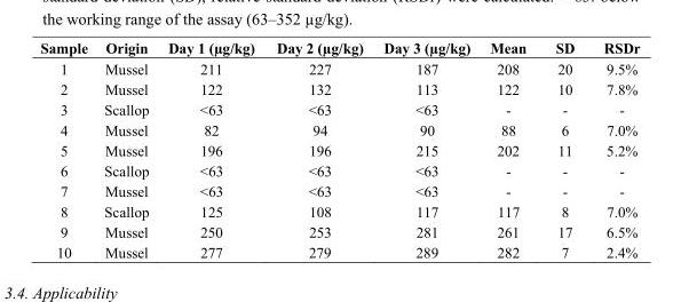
<table><thead><tr><td>Sample</td><td>Origin</td><td>Day 1 (µg/kg)</td><td>Day 2 (µg/kg)</td><td>Day 3 (µg/kg)</td><td>Mean</td><td>SD</td><td>RSDr</td></tr></thead><tbody><tr><td>1</td><td>Mussel</td><td>211</td><td>227</td><td>187</td><td>208</td><td>20</td><td>9.5%</td></tr><tr><td>2</td><td>Mussel</td><td>122</td><td>132</td><td>113</td><td>122</td><td>10</td><td>7.8%</td></tr><tr><td>3</td><td>Scallop</td><td>&lt;63</td><td>&lt;63</td><td>&lt;63</td><td>-</td><td>-</td><td>-</td></tr><tr><td>4</td><td>Mussel</td><td>82</td><td>94</td><td>90</td><td>88</td><td>6</td><td>7.0%</td></tr><tr><td>5</td><td>Mussel</td><td>196</td><td>196</td><td>215</td><td>202</td><td>11</td><td>5.2%</td></tr><tr><td>6</td><td>Scallop</td><td>&lt;63</td><td>&lt;63</td><td>&lt;63</td><td>-</td><td>-</td><td>-</td></tr><tr><td>7</td><td>Mussel</td><td>&lt;63</td><td>&lt;63</td><td>&lt;63</td><td>-</td><td>-</td><td>-</td></tr><tr><td>8</td><td>Scallop</td><td>125</td><td>108</td><td>117</td><td>117</td><td>8</td><td>7.0%</td></tr><tr><td>9</td><td>Mussel</td><td>250</td><td>253</td><td>281</td><td>261</td><td>17</td><td>6.5%</td></tr><tr><td>10</td><td>Mussel</td><td>277</td><td>279</td><td>289</td><td>282</td><td>7</td><td>2.4%</td></tr></tbody></table>